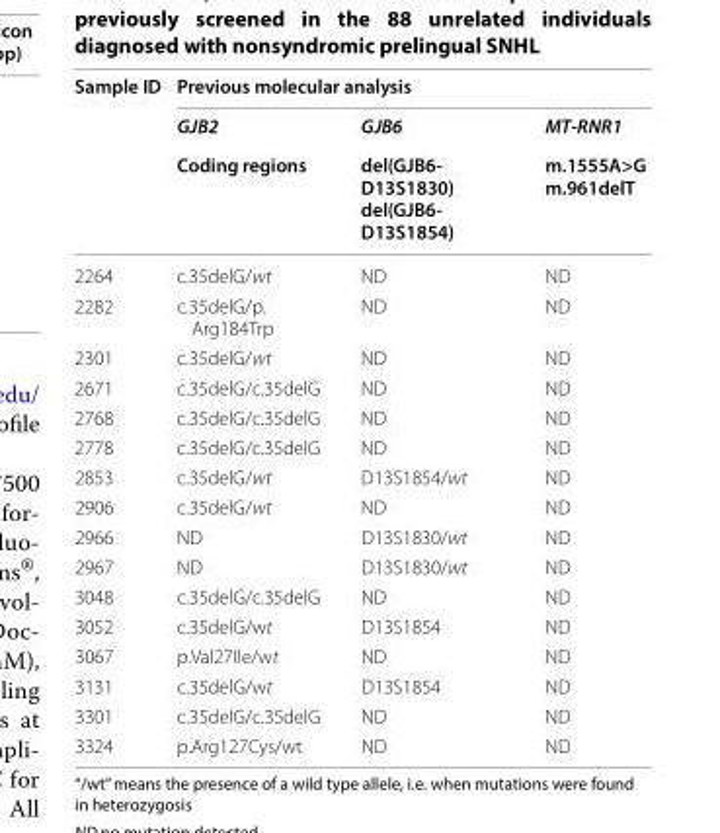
<table><thead><tr><td rowspan="3">Sample ID</td><td colspan="3">Previous molecular analysis</td></tr><tr><td rowspan="2">GJB2 Coding regions</td><td rowspan="2">GJB6 del(GJB6- D13S1830) del(GJB6- D13S1854)</td><td rowspan="2">MT-RNR1 m.1555A&gt;G m.961delT</td></tr><tr></tr></thead><tbody><tr><td>2264</td><td>c.35delG/wt</td><td>ND</td><td>ND</td></tr><tr><td>2282</td><td>c.35delG/p. Arg184Trp</td><td>ND</td><td>ND</td></tr><tr><td>2301</td><td>c.35delG/wt</td><td>ND</td><td>ND</td></tr><tr><td>2671</td><td>c.35delG/c.35delG</td><td>ND</td><td>ND</td></tr><tr><td>2768</td><td>c.35delG/c.35delG</td><td>ND</td><td>ND</td></tr><tr><td>2778</td><td>c.35delG/c.35delG</td><td>ND</td><td>ND</td></tr><tr><td>2853</td><td>c.35delG/wt</td><td>D13S1854/wt</td><td>ND</td></tr><tr><td>2906</td><td>c.35delG/wt</td><td>ND</td><td>ND</td></tr><tr><td>2966</td><td>ND</td><td>D13S1830/wt</td><td>ND</td></tr><tr><td>2967</td><td>ND</td><td>D13S1830/wt</td><td>ND</td></tr><tr><td>3048</td><td>c.35delG/c.35delG</td><td>ND</td><td>ND</td></tr><tr><td>3052</td><td>c.35delG/wt</td><td>D13S1854</td><td>ND</td></tr><tr><td>3067</td><td>p.Val27Ile/wt</td><td>ND</td><td>ND</td></tr><tr><td>3131</td><td>c.35delG/wt</td><td>D13S1854</td><td>ND</td></tr><tr><td>3301</td><td>c.35delG/c.35delG</td><td>ND</td><td>ND</td></tr><tr><td>3324</td><td>p.Arg127Cys/wt</td><td>ND</td><td>ND</td></tr></tbody></table>